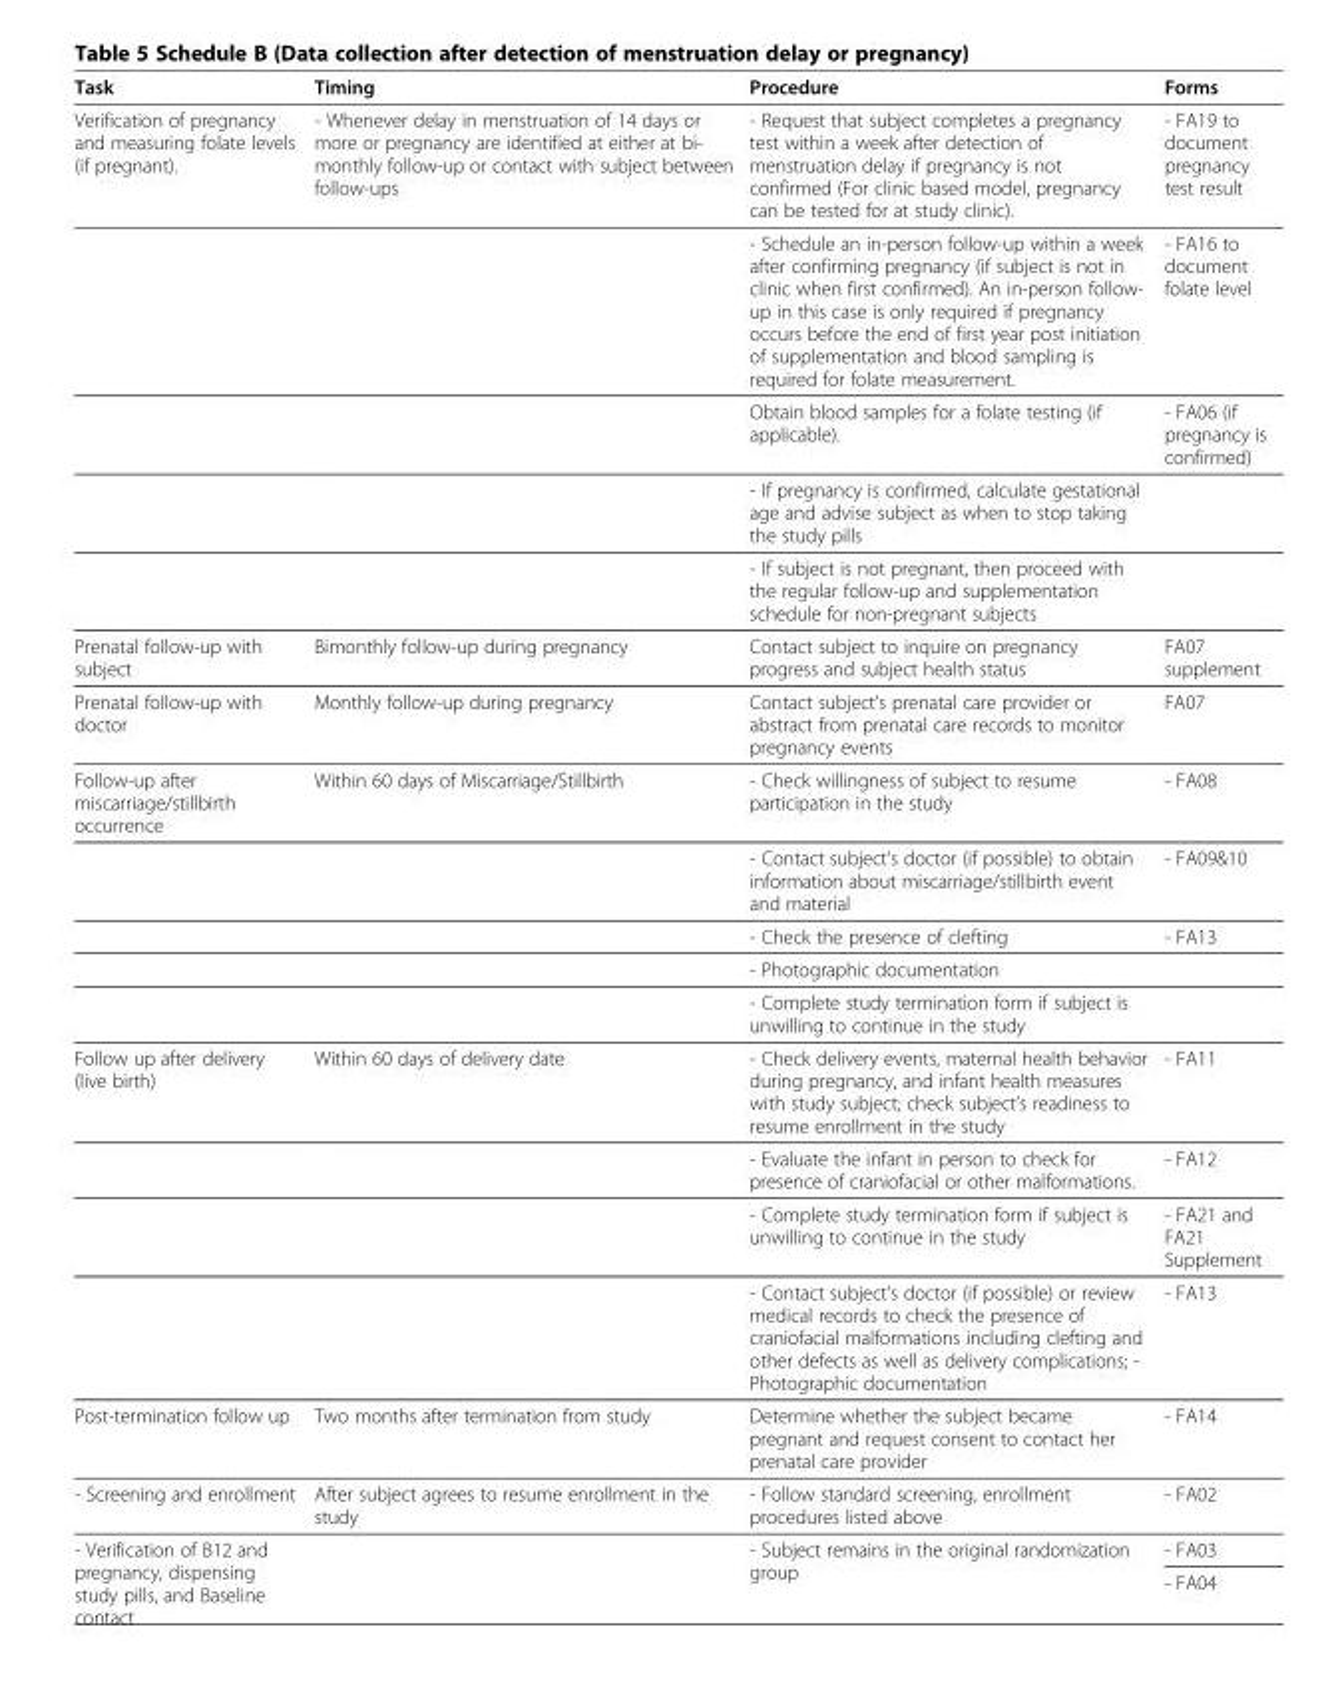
<table><thead><tr><td>Task</td><td>Timing</td><td>Procedure</td><td>Forms</td></tr></thead><tbody><tr><td rowspan="5">Verification of pregnancy and measuring folate levels (if pregnant).</td><td>- Whenever delay in menstruation of 14 days or more or pregnancy are identified at either at bi- monthly follow-up or contact with subject between follow-ups</td><td>- Request that subject completes a pregnancy test within a week after detection of menstruation delay if pregnancy is not confirmed (For clinic based model, pregnancy can be tested for at study clinic).</td><td>- FA19 to document pregnancy test result</td></tr><tr><td></td><td>- Schedule an in-person follow-up within a week after confirming pregnancy (if subject is not in clinic when first confirmed). An in-person follow- up in this case is only required if pregnancy occurs before the end of first year post initiation of supplementation and blood sampling is required for folate measurement.</td><td>- FA16 to document folate level</td></tr><tr><td></td><td>Obtain blood samples for a folate testing (if applicable).</td><td>- FA06 (if pregnancy is confirmed)</td></tr><tr><td></td><td>- If pregnancy is confirmed, calculate gestational age and advise subject as when to stop taking the study pills</td><td></td></tr><tr><td></td><td>- If subject is not pregnant, then proceed with the regular follow-up and supplementation schedule for non-pregnant subjects</td><td></td></tr><tr><td>Prenatal follow-up with subject</td><td>Bimonthly follow-up during pregnancy</td><td>Contact subject to inquire on pregnancy progress and subject health status</td><td>FA07 supplement</td></tr><tr><td>Prenatal follow-up with doctor</td><td>Monthly follow-up during pregnancy</td><td>Contact subject’s prenatal care provider or abstract from prenatal care records to monitor pregnancy events</td><td>FA07</td></tr><tr><td rowspan="5">Follow-up after miscarriage/stillbirth occurrence</td><td>Within 60 days of Miscarriage/Stillbirth</td><td>- Check willingness of subject to resume participation in the study</td><td>- FA08</td></tr><tr><td></td><td>- Contact subject’s doctor (if possible) to obtain information about miscarriage/stillbirth event and material</td><td>- FA09&amp;10</td></tr><tr><td></td><td>- Check the presence of clefting</td><td>- FA13</td></tr><tr><td></td><td>- Photographic documentation</td><td></td></tr><tr><td></td><td>- Complete study termination form if subject is unwilling to continue in the study</td><td></td></tr><tr><td rowspan="4">Follow up after delivery (live birth)</td><td>Within 60 days of delivery date</td><td>- Check delivery events, maternal health behavior during pregnancy, and infant health measures with study subject; check subject’s readiness to resume enrollment in the study</td><td>- FA11</td></tr><tr><td></td><td>- Evaluate the infant in person to check for presence of craniofacial or other malformations.</td><td>- FA12</td></tr><tr><td></td><td>- Complete study termination form if subject is unwilling to continue in the study</td><td>- FA21 and FA21 Supplement</td></tr><tr><td></td><td>- Contact subject’s doctor (if possible) or review medical records to check the presence of craniofacial malformations including clefting and other defects as well as delivery complications; - Photographic documentation</td><td>- FA13</td></tr><tr><td>Post-termination follow up</td><td>Two months after termination from study</td><td>Determine whether the subject became pregnant and request consent to contact her prenatal care provider</td><td>- FA14</td></tr><tr><td>- Screening and enrollment</td><td>After subject agrees to resume enrollment in the study</td><td>- Follow standard screening, enrollment procedures listed above</td><td>- FA02</td></tr><tr><td rowspan="2">- Verification of B12 and pregnancy, dispensing study pills, and Baseline contact</td><td rowspan="2"></td><td rowspan="2">- Subject remains in the original randomization group</td><td>- FA03</td></tr><tr><td>- FA04</td></tr></tbody></table>